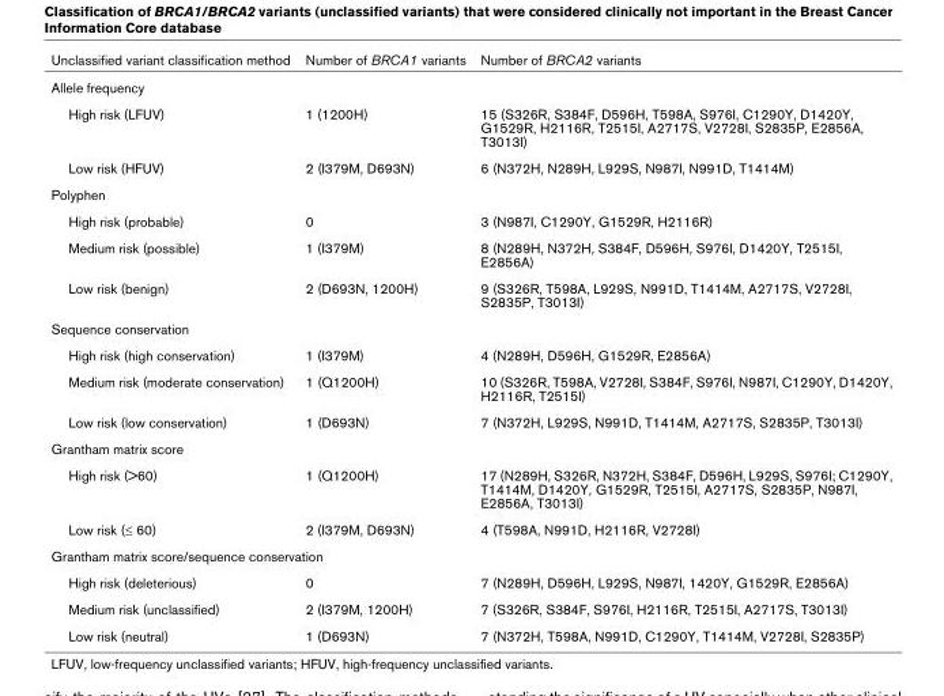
<table><thead><tr><td>Unclassified variant classification method</td><td>Number of BRCA1 variants</td><td>Number of BRCA2 variants</td></tr></thead><tbody><tr><td colspan="3">Allele frequency</td></tr><tr><td>High risk (LFUV)</td><td>1 (1200H)</td><td>15 (S326R, S384F, D596H, T598A, S976I, C1290Y, D1420Y, G1529R, H2116R, T2515I, A2717S, V2728I, S2835P, E2856A, T3013I)</td></tr><tr><td>Low risk (HFUV)</td><td>2 (I379M, D693N)</td><td>6 (N372H, N289H, L929S, N987I, N991D, T1414M)</td></tr><tr><td colspan="3">Polyphen</td></tr><tr><td>High risk (probable)</td><td>0</td><td>3 (N987I, C1290Y, G1529R, H2116R)</td></tr><tr><td>Medium risk (possible)</td><td>1 (I379M)</td><td>8 (N289H, N372H, S384F, D596H, S976I, D1420Y, T2515I, E2856A)</td></tr><tr><td>Low risk (benign)</td><td>2 (D693N, 1200H)</td><td>9 (S326R, T598A, L929S, N991D, T1414M, A2717S, V2728I, S2835P, T3013I)</td></tr><tr><td colspan="3">Sequence conservation</td></tr><tr><td>High risk (high conservation)</td><td>1 (I379M)</td><td>4 (N289H, D596H, G1529R, E2856A)</td></tr><tr><td>Medium risk (moderate conservation)</td><td>1 (Q1200H)</td><td>10 (S326R, T598A, V2728I, S384F, S976I, N987I, C1290Y, D1420Y, H2116R, T2515I)</td></tr><tr><td>Low risk (low conservation)</td><td>1 (D693N)</td><td>7 (N372H, L929S, N991D, T1414M, A2717S, S2835P, T3013I)</td></tr><tr><td colspan="3">Grantham matrix score</td></tr><tr><td>High risk (&gt;60)</td><td>1 (Q1200H)</td><td>17 (N289H, S326R, N372H, S384F, D596H, L929S, S976I; C1290Y, T1414M, D1420Y, G1529R, T2515I, A2717S, S2835P, N987I, E2856A, T3013I)</td></tr><tr><td>Low risk (≤ 60)</td><td>2 (I379M, D693N)</td><td>4 (T598A, N991D, H2116R, V2728I)</td></tr><tr><td colspan="3">Grantham matrix score/sequence conservation</td></tr><tr><td>High risk (deleterious)</td><td>0</td><td>7 (N289H, D596H, L929S, N987I, 1420Y, G1529R, E2856A)</td></tr><tr><td>Medium risk (unclassified)</td><td>2 (I379M, 1200H)</td><td>7 (S326R, S384F, S976I, H2116R, T2515I, A2717S, T3013I)</td></tr><tr><td>Low risk (neutral)</td><td>1 (D693N)</td><td>7 (N372H, T598A, N991D, C1290Y, T1414M, V2728I, S2835P)</td></tr></tbody></table>